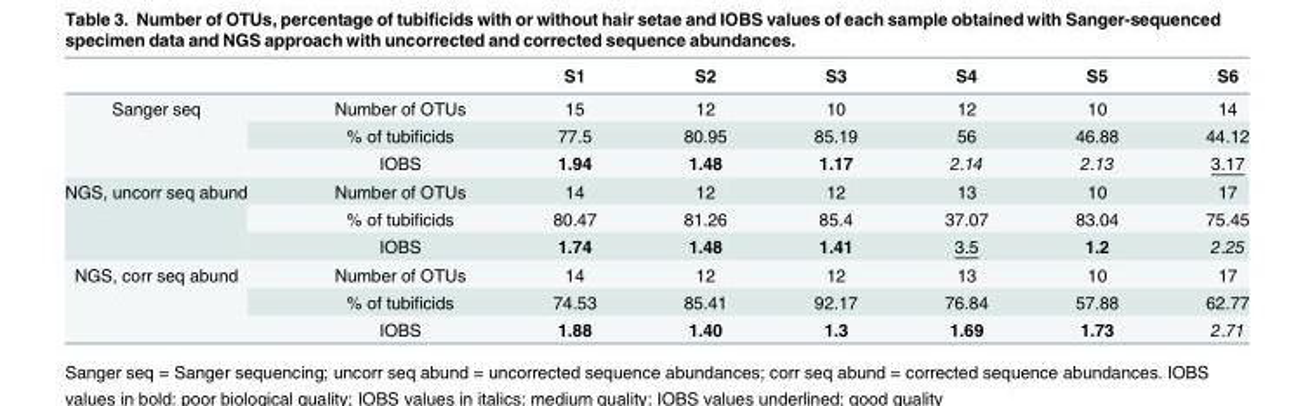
<table><thead><tr><td></td><td></td><td>S1</td><td>S2</td><td>S3</td><td>S4</td><td>S5</td><td>S6</td></tr></thead><tbody><tr><td rowspan="3">Sanger seq</td><td>Number of OTUs</td><td>15</td><td>12</td><td>10</td><td>12</td><td>10</td><td>14</td></tr><tr><td>% of tubificids</td><td>77.5</td><td>80.95</td><td>85.19</td><td>56</td><td>46.88</td><td>44.12</td></tr><tr><td>IOBS</td><td>1.94</td><td>1.48</td><td>1.17</td><td>2.14</td><td>2.13</td><td>3.17</td></tr><tr><td rowspan="3">NGS, uncorr seq abund</td><td>Number of OTUs</td><td>14</td><td>12</td><td>12</td><td>13</td><td>10</td><td>17</td></tr><tr><td>% of tubificids</td><td>80.47</td><td>81.26</td><td>85.4</td><td>37.07</td><td>83.04</td><td>75.45</td></tr><tr><td>IOBS</td><td>1.74</td><td>1.48</td><td>1.41</td><td>3.5</td><td>1.2</td><td>2.25</td></tr><tr><td rowspan="3">NGS, corr seq abund</td><td>Number of OTUs</td><td>14</td><td>12</td><td>12</td><td>13</td><td>10</td><td>17</td></tr><tr><td>% of tubificids</td><td>74.53</td><td>85.41</td><td>92.17</td><td>76.84</td><td>57.88</td><td>62.77</td></tr><tr><td>IOBS</td><td>1.88</td><td>1.40</td><td>1.3</td><td>1.69</td><td>1.73</td><td>2.71</td></tr></tbody></table>